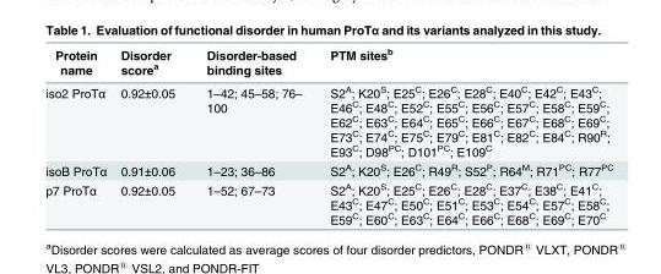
<table><thead><tr><td>Protein name</td><td>Disorder score<sup>a</sup></td><td>Disorder-based binding sites</td><td>PTM sites<sup>b</sup></td></tr></thead><tbody><tr><td>iso2 ProTα</td><td>0.92±0.05</td><td>1–42; 45–58; 76– 100</td><td>S2A; K20S; E25C; E26C; E28C; E40C; E42C; E43C; E46C; E48C; E52C; E55C; E56C; E57C; E58C; E59C; E62C; E63C; E64C; E65C; E66C; E67C; E68C; E69C; E73C; E74C; E75C; E79C; E81C; E82C; E84C; R90R; E93C; D98PC; D101PC; E109C</td></tr><tr><td>isoB ProTα</td><td>0.91±0.06</td><td>1–23; 36–86</td><td>S2<sup>A</sup>; K20<sup>S</sup>; E26<sup>C</sup>; R49<sup>R</sup>; S52<sup>P</sup>; R64<sup>M</sup>; R71<sup>PC</sup>; R77<sup>PC</sup></td></tr><tr><td>p7 ProTα</td><td>0.92±0.05</td><td>1–52; 67–73</td><td>S2<sup>A</sup>; K20<sup>S</sup>; E25<sup>C</sup>; E26<sup>C</sup>; E28<sup>C</sup>; E37<sup>C</sup>; E38<sup>C</sup>; E41<sup>C</sup>; E43<sup>C</sup>; E47<sup>C</sup>; E50<sup>C</sup>; E51<sup>C</sup>; E53<sup>C</sup>; E54<sup>C</sup>; E57<sup>C</sup>; E58<sup>C</sup>; E59<sup>C</sup>; E60<sup>C</sup>; E63<sup>C</sup>; E64<sup>C</sup>; E66<sup>C</sup>; E68<sup>C</sup>; E69<sup>C</sup>; E70<sup>C</sup></td></tr></tbody></table>